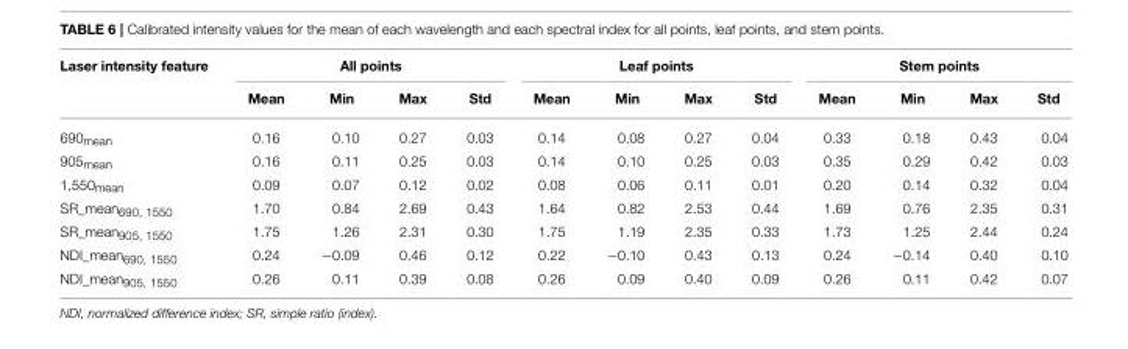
<table><thead><tr><td rowspan="2">Laser intensity feature</td><td colspan="4">All points</td><td colspan="4">Leaf points</td><td colspan="4">Stem points</td></tr><tr><td>Mean</td><td>Min</td><td>Max</td><td>Std</td><td>Mean</td><td>Min</td><td>Max</td><td>Std</td><td>Mean</td><td>Min</td><td>Max</td><td>Std</td></tr></thead><tbody><tr><td>690<sub>mean</sub></td><td>0.16</td><td>0.10</td><td>0.27</td><td>0.03</td><td>0.14</td><td>0.08</td><td>0.27</td><td>0.04</td><td>0.33</td><td>0.18</td><td>0.43</td><td>0.04</td></tr><tr><td>905<sub>mean</sub></td><td>0.16</td><td>0.11</td><td>0.25</td><td>0.03</td><td>0.14</td><td>0.10</td><td>0.25</td><td>0.03</td><td>0.35</td><td>0.29</td><td>0.42</td><td>0.03</td></tr><tr><td>1,550<sub>mean</sub></td><td>0.09</td><td>0.07</td><td>0.12</td><td>0.02</td><td>0.08</td><td>0.06</td><td>0.11</td><td>0.01</td><td>0.20</td><td>0.14</td><td>0.32</td><td>0.04</td></tr><tr><td>SR_mean<sub>690, 1550</sub></td><td>1.70</td><td>0.84</td><td>2.69</td><td>0.43</td><td>1.64</td><td>0.82</td><td>2.53</td><td>0.44</td><td>1.69</td><td>0.76</td><td>2.35</td><td>0.31</td></tr><tr><td>SR_mean<sub>905, 1550</sub></td><td>1.75</td><td>1.26</td><td>2.31</td><td>0.30</td><td>1.75</td><td>1.19</td><td>2.35</td><td>0.33</td><td>1.73</td><td>1.25</td><td>2.44</td><td>0.24</td></tr><tr><td>NDI_mean<sub>690, 1550</sub></td><td>0.24</td><td>−0.09</td><td>0.46</td><td>0.12</td><td>0.22</td><td>−0.10</td><td>0.43</td><td>0.13</td><td>0.24</td><td>−0.14</td><td>0.40</td><td>0.10</td></tr><tr><td>NDI_mean<sub>905, 1550</sub></td><td>0.26</td><td>0.11</td><td>0.39</td><td>0.08</td><td>0.26</td><td>0.09</td><td>0.40</td><td>0.09</td><td>0.26</td><td>0.11</td><td>0.42</td><td>0.07</td></tr></tbody></table>